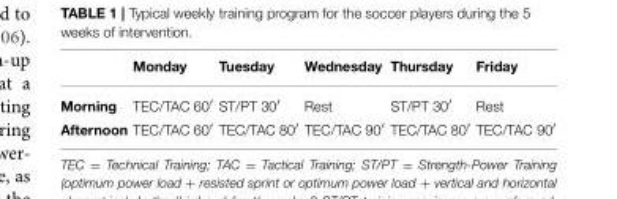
<table><thead><tr><td></td><td>Monday</td><td>Tuesday</td><td>Wednesday</td><td>Thursday</td><td>Friday</td></tr></thead><tbody><tr><td>Morning</td><td>TEC/TAC 60′</td><td>ST/PT 30′</td><td>Rest</td><td>ST/PT 30′</td><td>Rest</td></tr><tr><td>Afternoon</td><td>TEC/TAC 60′</td><td>TEC/TAC 80′</td><td>TEC/TAC 90′</td><td>TEC/TAC 80′</td><td>TEC/TAC 90′</td></tr></tbody></table>